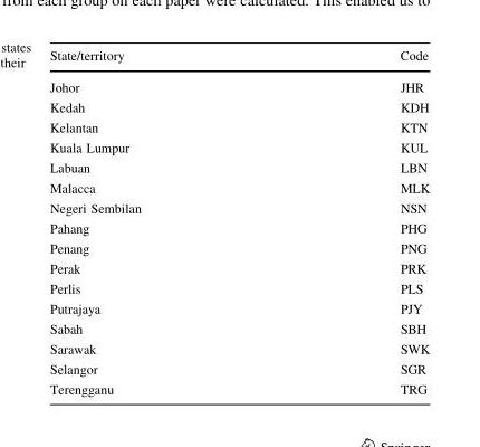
<table><thead><tr><td>State/territory</td><td>Code</td></tr></thead><tbody><tr><td>Johor</td><td>JHR</td></tr><tr><td>Kedah</td><td>KDH</td></tr><tr><td>Kelantan</td><td>KTN</td></tr><tr><td>Kuala Lumpur</td><td>KUL</td></tr><tr><td>Labuan</td><td>LBN</td></tr><tr><td>Malacca</td><td>MLK</td></tr><tr><td>Negeri Sembilan</td><td>NSN</td></tr><tr><td>Pahang</td><td>PHG</td></tr><tr><td>Penang</td><td>PNG</td></tr><tr><td>Perak</td><td>PRK</td></tr><tr><td>Perlis</td><td>PLS</td></tr><tr><td>Putrajaya</td><td>PJY</td></tr><tr><td>Sabah</td><td>SBH</td></tr><tr><td>Sarawak</td><td>SWK</td></tr><tr><td>Selangor</td><td>SGR</td></tr><tr><td>Terengganu</td><td>TRG</td></tr></tbody></table>